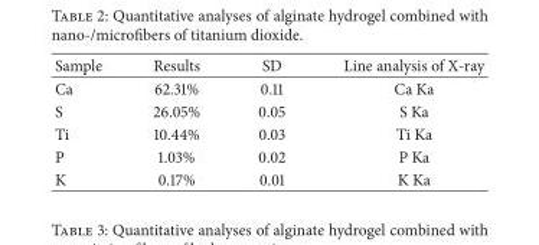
<table><thead><tr><td>Sample</td><td>Results</td><td>SD</td><td>Line analysis of X-ray</td></tr></thead><tbody><tr><td>Ca</td><td>62.31%</td><td>0.11</td><td>Ca Ka</td></tr><tr><td>S</td><td>26.05%</td><td>0.05</td><td>S Ka</td></tr><tr><td>Ti</td><td>10.44%</td><td>0.03</td><td>Ti Ka</td></tr><tr><td>P</td><td>1.03%</td><td>0.02</td><td>P Ka</td></tr><tr><td>K</td><td>0.17%</td><td>0.01</td><td>K Ka</td></tr></tbody></table>